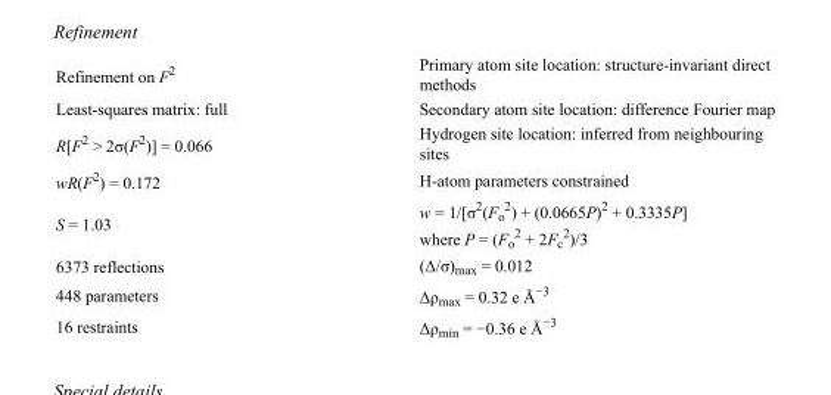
<table><tbody><tr><td>Refinement on F<sup>2</sup></td><td>Primary atom site location: structure-invariant direct methods</td></tr><tr><td>Least-squares matrix: full</td><td>Secondary atom site location: difference Fourier map</td></tr><tr><td>R[F<sup>2</sup> &gt; 2σ(F<sup>2</sup>)] = 0.066</td><td>Hydrogen site location: inferred from neighbouring sites</td></tr><tr><td>wR(F<sup>2</sup>) = 0.172</td><td>H-atom parameters constrained</td></tr><tr><td>S = 1.03</td><td>w = 1/[σ<sup>2</sup>(F<sub>o</sub> <sup>2</sup>) + (0.0665P)<sup>2</sup> + 0.3335P] where P = (F<sub>o</sub> <sup>2</sup> + 2F<sub>c</sub> <sup>2</sup>)/3</td></tr><tr><td>6373 reflections</td><td>(Δ/σ)<sub>max</sub> = 0.012</td></tr><tr><td>448 parameters</td><td>Δρ<sub>max</sub> = 0.32 e Å<sup>−3</sup></td></tr><tr><td>16 restraints</td><td>Δρ<sub>min</sub> = −0.36 e Å<sup>−3</sup></td></tr></tbody></table>